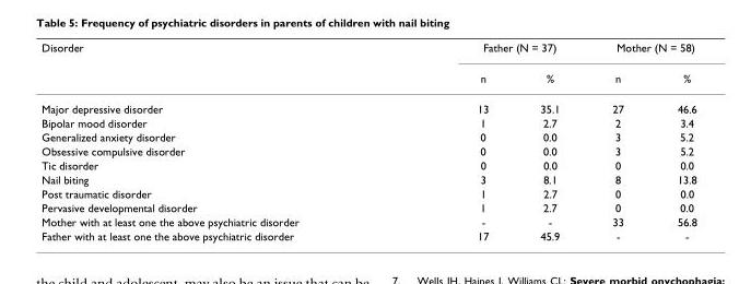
<table><thead><tr><td rowspan="2">Disorder</td><td colspan="2">Father (N = 37)</td><td colspan="2">Mother (N = 58)</td></tr><tr><td>n</td><td>%</td><td>n</td><td>%</td></tr></thead><tbody><tr><td>Major depressive disorder</td><td>13</td><td>35.1</td><td>27</td><td>46.6</td></tr><tr><td>Bipolar mood disorder</td><td>1</td><td>2.7</td><td>2</td><td>3.4</td></tr><tr><td>Generalized anxiety disorder</td><td>0</td><td>0.0</td><td>3</td><td>5.2</td></tr><tr><td>Obsessive compulsive disorder</td><td>0</td><td>0.0</td><td>3</td><td>5.2</td></tr><tr><td>Tic disorder</td><td>0</td><td>0.0</td><td>0</td><td>0.0</td></tr><tr><td>Nail biting</td><td>3</td><td>8.1</td><td>8</td><td>13.8</td></tr><tr><td>Post traumatic disorder</td><td>1</td><td>2.7</td><td>0</td><td>0.0</td></tr><tr><td>Pervasive developmental disorder</td><td>1</td><td>2.7</td><td>0</td><td>0.0</td></tr><tr><td>Mother with at least one the above psychiatric disorder</td><td>-</td><td>-</td><td>33</td><td>56.8</td></tr><tr><td>Father with at least one the above psychiatric disorder</td><td>17</td><td>45.9</td><td>-</td><td>-</td></tr></tbody></table>